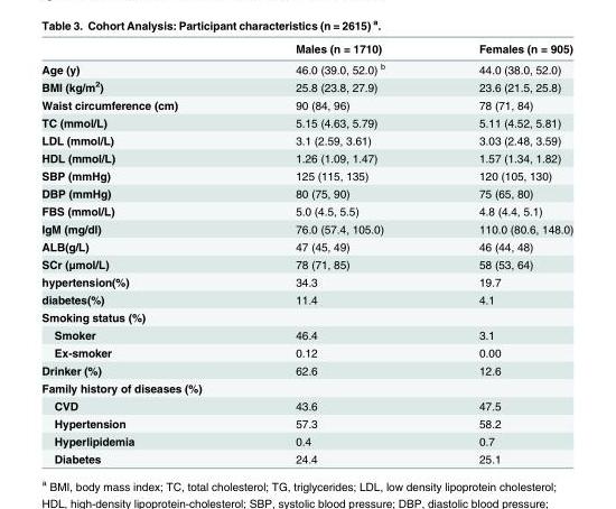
<table><thead><tr><td></td><td>Males (n = 1710)</td><td>Females (n = 905)</td></tr></thead><tbody><tr><td>Age (y)</td><td>46.0 (39.0, 52.0) <sup>b</sup></td><td>44.0 (38.0, 52.0)</td></tr><tr><td>BMI (kg/m<sup>2</sup>)</td><td>25.8 (23.8, 27.9)</td><td>23.6 (21.5, 25.8)</td></tr><tr><td>Waist circumference (cm)</td><td>90 (84, 96)</td><td>78 (71, 84)</td></tr><tr><td>TC (mmol/L)</td><td>5.15 (4.63, 5.79)</td><td>5.11 (4.52, 5.81)</td></tr><tr><td>LDL (mmol/L)</td><td>3.1 (2.59, 3.61)</td><td>3.03 (2.48, 3.59)</td></tr><tr><td>HDL (mmol/L)</td><td>1.26 (1.09, 1.47)</td><td>1.57 (1.34, 1.82)</td></tr><tr><td>SBP (mmHg)</td><td>125 (115, 135)</td><td>120 (105, 130)</td></tr><tr><td>DBP (mmHg)</td><td>80 (75, 90)</td><td>75 (65, 80)</td></tr><tr><td>FBS (mmol/L)</td><td>5.0 (4.5, 5.5)</td><td>4.8 (4.4, 5.1)</td></tr><tr><td>IgM (mg/dl)</td><td>76.0 (57.4, 105.0)</td><td>110.0 (80.6, 148.0)</td></tr><tr><td>ALB(g/L)</td><td>47 (45, 49)</td><td>46 (44, 48)</td></tr><tr><td>SCr (μmol/L)</td><td>78 (71, 85)</td><td>58 (53, 64)</td></tr><tr><td>hypertension(%)</td><td>34.3</td><td>19.7</td></tr><tr><td>diabetes(%)</td><td>11.4</td><td>4.1</td></tr><tr><td colspan="3">Smoking status (%)</td></tr><tr><td>Smoker</td><td>46.4</td><td>3.1</td></tr><tr><td>Ex-smoker</td><td>0.12</td><td>0.00</td></tr><tr><td>Drinker (%)</td><td>62.6</td><td>12.6</td></tr><tr><td colspan="3">Family history of diseases (%)</td></tr><tr><td>CVD</td><td>43.6</td><td>47.5</td></tr><tr><td>Hypertension</td><td>57.3</td><td>58.2</td></tr><tr><td>Hyperlipidemia</td><td>0.4</td><td>0.7</td></tr><tr><td>Diabetes</td><td>24.4</td><td>25.1</td></tr></tbody></table>